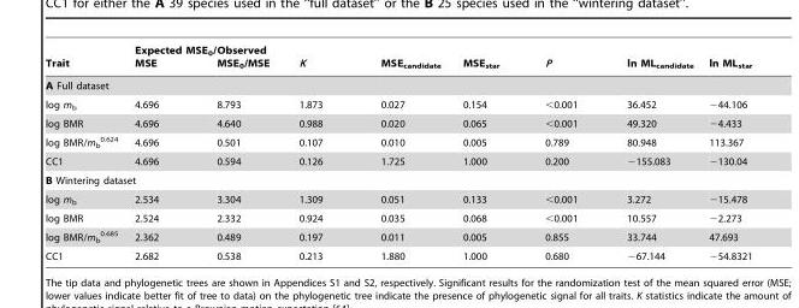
<table><thead><tr><td>Trait</td><td>Expected MSE<sub>0</sub>/ MSE</td><td>Observed MSE<sub>0</sub>/MSE</td><td>K</td><td>MSE<sub>candidate</sub></td><td>MSE<sub>star</sub></td><td>P</td><td>ln ML<sub>candidate</sub></td><td>ln ML<sub>star</sub></td></tr></thead><tbody><tr><td colspan="9">A Full dataset</td></tr><tr><td>log m<sub>b</sub></td><td>4.696</td><td>8.793</td><td>1.873</td><td>0.027</td><td>0.154</td><td>&lt;0.001</td><td>36.452</td><td>−44.106</td></tr><tr><td>log BMR</td><td>4.696</td><td>4.640</td><td>0.988</td><td>0.020</td><td>0.065</td><td>&lt;0.001</td><td>49.320</td><td>−4.433</td></tr><tr><td>log BMR/m<sub>b</sub> <sup>0.624</sup></td><td>4.696</td><td>0.501</td><td>0.107</td><td>0.010</td><td>0.005</td><td>0.789</td><td>80.948</td><td>113.367</td></tr><tr><td>CC1</td><td>4.696</td><td>0.594</td><td>0.126</td><td>1.725</td><td>1.000</td><td>0.200</td><td>−155.083</td><td>−130.04</td></tr><tr><td colspan="9">B Wintering dataset</td></tr><tr><td>log m<sub>b</sub></td><td>2.534</td><td>3.304</td><td>1.309</td><td>0.051</td><td>0.133</td><td>&lt;0.001</td><td>3.272</td><td>−15.478</td></tr><tr><td>log BMR</td><td>2.524</td><td>2.332</td><td>0.924</td><td>0.035</td><td>0.068</td><td>&lt;0.001</td><td>10.557</td><td>−2.273</td></tr><tr><td>log BMR/m<sub>b</sub> <sup>0.685</sup></td><td>2.362</td><td>0.489</td><td>0.197</td><td>0.011</td><td>0.005</td><td>0.855</td><td>33.744</td><td>47.693</td></tr><tr><td>CC1</td><td>2.682</td><td>0.538</td><td>0.213</td><td>1.880</td><td>1.000</td><td>0.680</td><td>−67.144</td><td>−54.8321</td></tr></tbody></table>